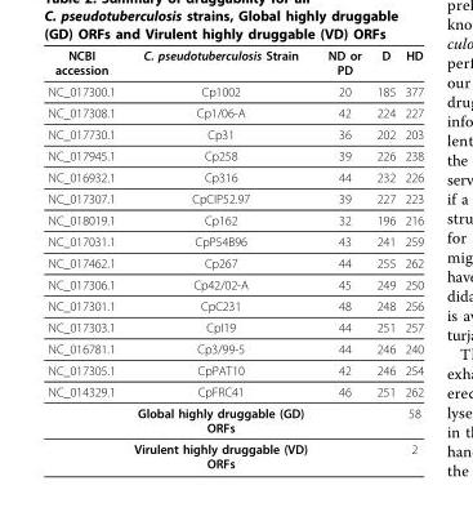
<table><thead><tr><td>NCBI accession</td><td>C. pseudotuberculosis Strain</td><td>ND or PD</td><td>D</td><td>HD</td></tr></thead><tbody><tr><td>NC_017300.1</td><td>Cp1002</td><td>20</td><td>185</td><td>377</td></tr><tr><td>NC_017308.1</td><td>Cp1/06-A</td><td>42</td><td>224</td><td>227</td></tr><tr><td>NC_017730.1</td><td>Cp31</td><td>36</td><td>202</td><td>203</td></tr><tr><td>NC_017945.1</td><td>Cp258</td><td>39</td><td>226</td><td>238</td></tr><tr><td>NC_016932.1</td><td>Cp316</td><td>44</td><td>232</td><td>226</td></tr><tr><td>NC_017307.1</td><td>CpCIP52.97</td><td>39</td><td>227</td><td>223</td></tr><tr><td>NC_018019.1</td><td>Cp162</td><td>32</td><td>196</td><td>216</td></tr><tr><td>NC_017031.1</td><td>CpP54B96</td><td>43</td><td>241</td><td>259</td></tr><tr><td>NC_017462.1</td><td>Cp267</td><td>44</td><td>255</td><td>262</td></tr><tr><td>NC_017306.1</td><td>Cp42/02-A</td><td>45</td><td>249</td><td>250</td></tr><tr><td>NC_017301.1</td><td>CpC231</td><td>48</td><td>248</td><td>256</td></tr><tr><td>NC_017303.1</td><td>CpI19</td><td>44</td><td>251</td><td>257</td></tr><tr><td>NC_016781.1</td><td>Cp3/99-5</td><td>44</td><td>246</td><td>240</td></tr><tr><td>NC_017305.1</td><td>CpPAT10</td><td>42</td><td>246</td><td>254</td></tr><tr><td rowspan="3">NC_014329.1</td><td>CpFRC41</td><td>46</td><td>251</td><td>262</td></tr><tr><td>Global highly druggable (GD) ORFs</td><td></td><td></td><td>58</td></tr><tr><td>Virulent highly druggable (VD) ORFs</td><td></td><td></td><td>2</td></tr></tbody></table>